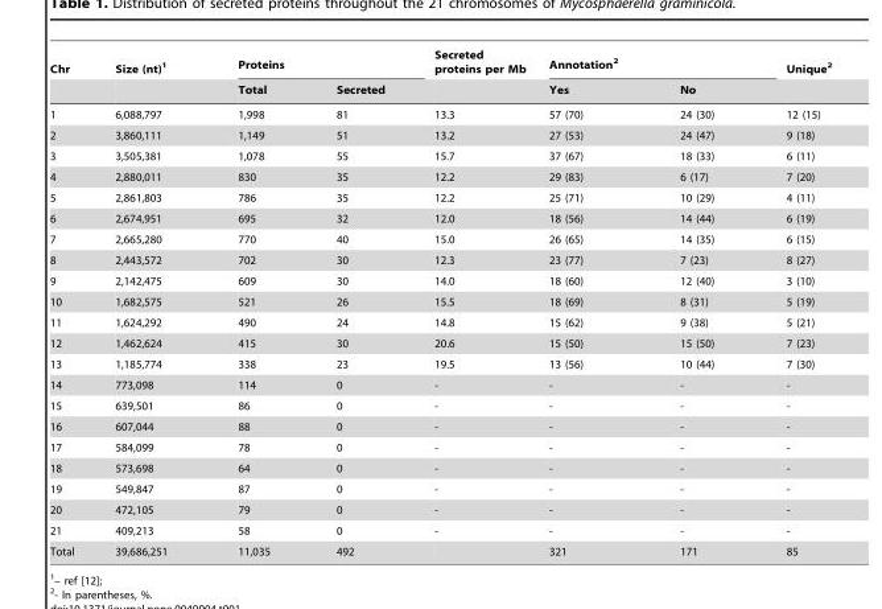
<table><thead><tr><td rowspan="2">Chr</td><td rowspan="2">Size (nt)<sup>1</sup></td><td colspan="2">Proteins</td><td rowspan="2">Secreted proteins per Mb</td><td colspan="2">Annotation<sup>2</sup></td><td rowspan="2">Unique<sup>2</sup></td></tr><tr><td>Total</td><td>Secreted</td><td>Yes</td><td>No</td></tr></thead><tbody><tr><td>1</td><td>6,088,797</td><td>1,998</td><td>81</td><td>13.3</td><td>57 (70)</td><td>24 (30)</td><td>12 (15)</td></tr><tr><td>2</td><td>3,860,111</td><td>1,149</td><td>51</td><td>13.2</td><td>27 (53)</td><td>24 (47)</td><td>9 (18)</td></tr><tr><td>3</td><td>3,505,381</td><td>1,078</td><td>55</td><td>15.7</td><td>37 (67)</td><td>18 (33)</td><td>6 (11)</td></tr><tr><td>4</td><td>2,880,011</td><td>830</td><td>35</td><td>12.2</td><td>29 (83)</td><td>6 (17)</td><td>7 (20)</td></tr><tr><td>5</td><td>2,861,803</td><td>786</td><td>35</td><td>12.2</td><td>25 (71)</td><td>10 (29)</td><td>4 (11)</td></tr><tr><td>6</td><td>2,674,951</td><td>695</td><td>32</td><td>12.0</td><td>18 (56)</td><td>14 (44)</td><td>6 (19)</td></tr><tr><td>7</td><td>2,665,280</td><td>770</td><td>40</td><td>15.0</td><td>26 (65)</td><td>14 (35)</td><td>6 (15)</td></tr><tr><td>8</td><td>2,443,572</td><td>702</td><td>30</td><td>12.3</td><td>23 (77)</td><td>7 (23)</td><td>8 (27)</td></tr><tr><td>9</td><td>2,142,475</td><td>609</td><td>30</td><td>14.0</td><td>18 (60)</td><td>12 (40)</td><td>3 (10)</td></tr><tr><td>10</td><td>1,682,575</td><td>521</td><td>26</td><td>15.5</td><td>18 (69)</td><td>8 (31)</td><td>5 (19)</td></tr><tr><td>11</td><td>1,624,292</td><td>490</td><td>24</td><td>14.8</td><td>15 (62)</td><td>9 (38)</td><td>5 (21)</td></tr><tr><td>12</td><td>1,462,624</td><td>415</td><td>30</td><td>20.6</td><td>15 (50)</td><td>15 (50)</td><td>7 (23)</td></tr><tr><td>13</td><td>1,185,774</td><td>338</td><td>23</td><td>19.5</td><td>13 (56)</td><td>10 (44)</td><td>7 (30)</td></tr><tr><td>14</td><td>773,098</td><td>114</td><td>0</td><td>-</td><td>-</td><td>-</td><td>-</td></tr><tr><td>15</td><td>639,501</td><td>86</td><td>0</td><td>-</td><td>-</td><td>-</td><td>-</td></tr><tr><td>16</td><td>607,044</td><td>88</td><td>0</td><td>-</td><td>-</td><td>-</td><td>-</td></tr><tr><td>17</td><td>584,099</td><td>78</td><td>0</td><td>-</td><td>-</td><td>-</td><td>-</td></tr><tr><td>18</td><td>573,698</td><td>64</td><td>0</td><td>-</td><td>-</td><td>-</td><td>-</td></tr><tr><td>19</td><td>549,847</td><td>87</td><td>0</td><td>-</td><td>-</td><td>-</td><td>-</td></tr><tr><td>20</td><td>472,105</td><td>79</td><td>0</td><td>-</td><td>-</td><td>-</td><td>-</td></tr><tr><td>21</td><td>409,213</td><td>58</td><td>0</td><td>-</td><td>-</td><td>-</td><td>-</td></tr><tr><td>Total</td><td>39,686,251</td><td>11,035</td><td>492</td><td></td><td>321</td><td>171</td><td>85</td></tr></tbody></table>